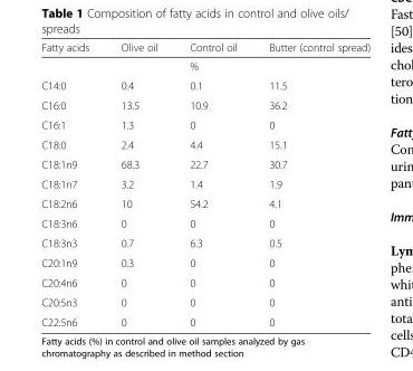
<table><thead><tr><td>Fatty acids</td><td>Olive oil</td><td>Control oil</td><td>Butter (control spread)</td></tr></thead><tbody><tr><td></td><td></td><td>%</td><td></td></tr><tr><td>C14:0</td><td>0.4</td><td>0.1</td><td>11.5</td></tr><tr><td>C16:0</td><td>13.5</td><td>10.9</td><td>36.2</td></tr><tr><td>C16:1</td><td>1.3</td><td>0</td><td>0</td></tr><tr><td>C18:0</td><td>2.4</td><td>4.4</td><td>15.1</td></tr><tr><td>C18:1n9</td><td>68.3</td><td>22.7</td><td>30.7</td></tr><tr><td>C18:1n7</td><td>3.2</td><td>1.4</td><td>1.9</td></tr><tr><td>C18:2n6</td><td>10</td><td>54.2</td><td>4.1</td></tr><tr><td>C18:3n6</td><td>0</td><td>0</td><td>0</td></tr><tr><td>C18:3n3</td><td>0.7</td><td>6.3</td><td>0.5</td></tr><tr><td>C20:1n9</td><td>0.3</td><td>0</td><td>0</td></tr><tr><td>C20:4n6</td><td>0</td><td>0</td><td>0</td></tr><tr><td>C20:5n3</td><td>0</td><td>0</td><td>0</td></tr><tr><td>C22:5n6</td><td>0</td><td>0</td><td>0</td></tr></tbody></table>